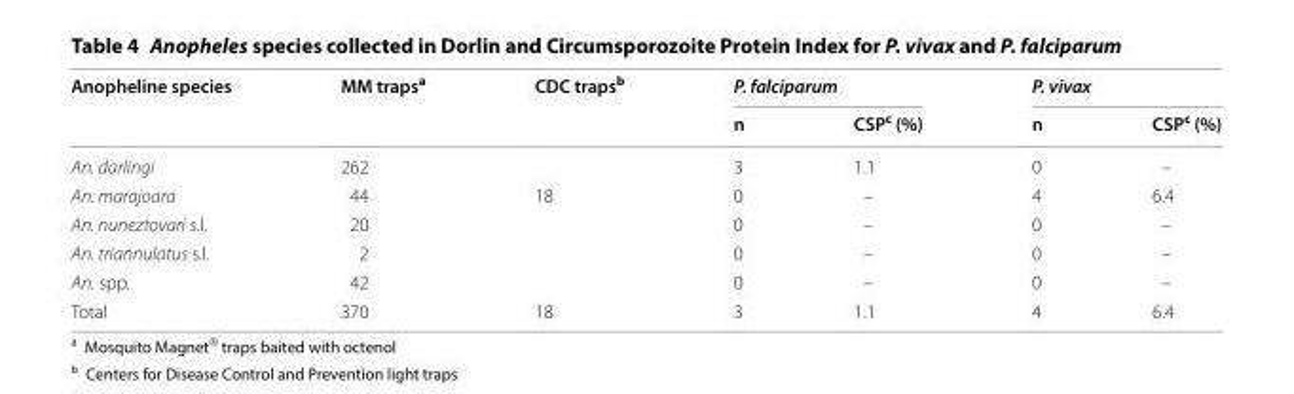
<table><thead><tr><td rowspan="2">Anopheline species</td><td rowspan="2">MM traps<sup>a</sup></td><td rowspan="2">CDC traps<sup>b</sup></td><td colspan="2">P. falciparum</td><td colspan="2">P. vivax</td></tr><tr><td>n</td><td>CSP<sup>c</sup> (%)</td><td>n</td><td>CSP<sup>c</sup> (%)</td></tr></thead><tbody><tr><td>An. darlingi</td><td>262</td><td></td><td>3</td><td>1.1</td><td>0</td><td>–</td></tr><tr><td>An. marajoara</td><td>44</td><td>18</td><td>0</td><td>–</td><td>4</td><td>6.4</td></tr><tr><td>An. nuneztovari s.l.</td><td>20</td><td></td><td>0</td><td>–</td><td>0</td><td>–</td></tr><tr><td>An. triannulatus s.l.</td><td>2</td><td></td><td>0</td><td>–</td><td>0</td><td>–</td></tr><tr><td>An. spp.</td><td>42</td><td></td><td>0</td><td>–</td><td>0</td><td>–</td></tr><tr><td>Total</td><td>370</td><td>18</td><td>3</td><td>1.1</td><td>4</td><td>6.4</td></tr></tbody></table>